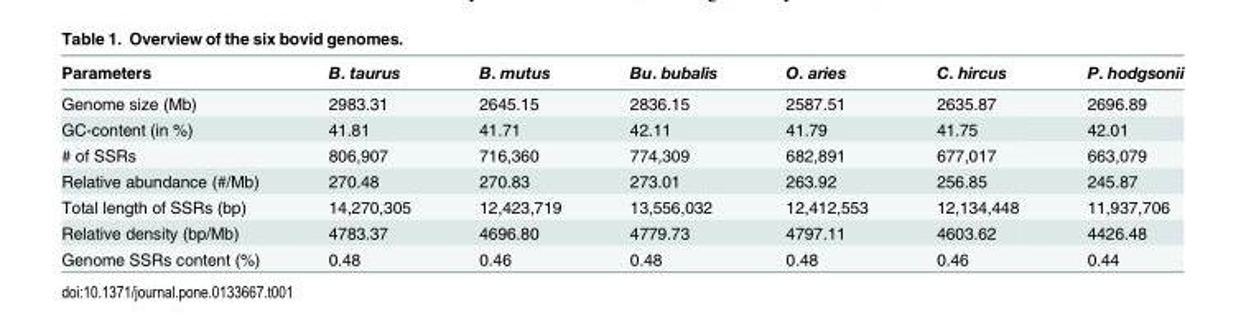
<table><thead><tr><td>Parameters</td><td>B. taurus</td><td>B. mutus</td><td>Bu. bubalis</td><td>O. aries</td><td>C. hircus</td><td>P. hodgsonii</td></tr></thead><tbody><tr><td>Genome size (Mb)</td><td>2983.31</td><td>2645.15</td><td>2836.15</td><td>2587.51</td><td>2635.87</td><td>2696.89</td></tr><tr><td>GC-content (in %)</td><td>41.81</td><td>41.71</td><td>42.11</td><td>41.79</td><td>41.75</td><td>42.01</td></tr><tr><td># of SSRs</td><td>806,907</td><td>716,360</td><td>774,309</td><td>682,891</td><td>677,017</td><td>663,079</td></tr><tr><td>Relative abundance (#/Mb)</td><td>270.48</td><td>270.83</td><td>273.01</td><td>263.92</td><td>256.85</td><td>245.87</td></tr><tr><td>Total length of SSRs (bp)</td><td>14,270,305</td><td>12,423,719</td><td>13,556,032</td><td>12,412,553</td><td>12,134,448</td><td>11,937,706</td></tr><tr><td>Relative density (bp/Mb)</td><td>4783.37</td><td>4696.80</td><td>4779.73</td><td>4797.11</td><td>4603.62</td><td>4426.48</td></tr><tr><td>Genome SSRs content (%)</td><td>0.48</td><td>0.46</td><td>0.48</td><td>0.48</td><td>0.46</td><td>0.44</td></tr></tbody></table>